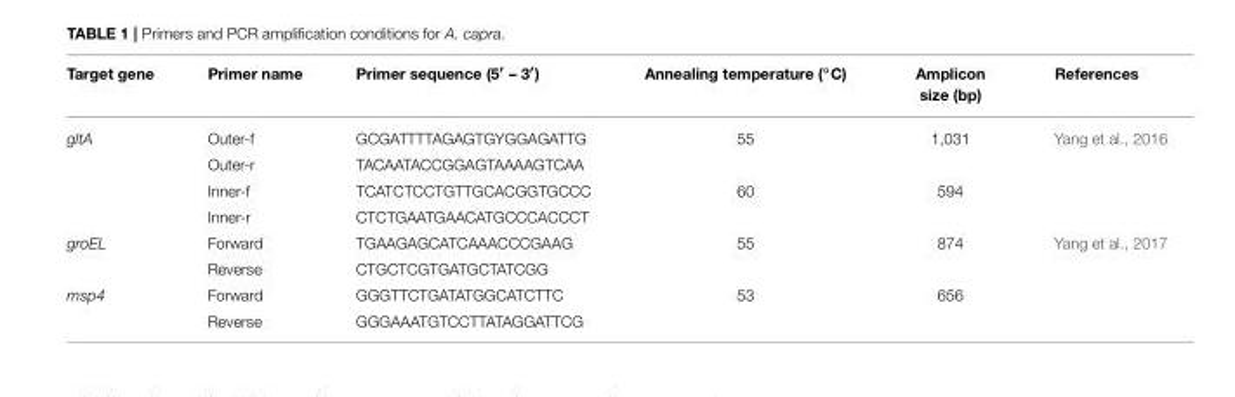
<table><thead><tr><td>Target gene</td><td>Primer name</td><td>Primer sequence (5′ – 3′)</td><td>Annealing temperature (◦C)</td><td>Amplicon size (bp)</td><td>References</td></tr></thead><tbody><tr><td rowspan="4">gltA</td><td>Outer-f</td><td>GCGATTTTAGAGTGYGGAGATTG</td><td>55</td><td>1,031</td><td>Yang et al., 2016</td></tr><tr><td>Outer-r</td><td>TACAATACCGGAGTAAAAGTCAA</td><td></td><td></td><td></td></tr><tr><td>Inner-f</td><td>TCATCTCCTGTTGCACGGTGCCC</td><td>60</td><td>594</td><td></td></tr><tr><td>Inner-r</td><td>CTCTGAATGAACATGCCCACCCT</td><td></td><td></td><td></td></tr><tr><td rowspan="2">groEL</td><td>Forward</td><td>TGAAGAGCATCAAACCCGAAG</td><td>55</td><td>874</td><td>Yang et al., 2017</td></tr><tr><td>Reverse</td><td>CTGCTCGTGATGCTATCGG</td><td></td><td></td><td></td></tr><tr><td rowspan="2">msp4</td><td>Forward</td><td>GGGTTCTGATATGGCATCTTC</td><td>53</td><td>656</td><td></td></tr><tr><td>Reverse</td><td>GGGAAATGTCCTTATAGGATTCG</td><td></td><td></td><td></td></tr></tbody></table>